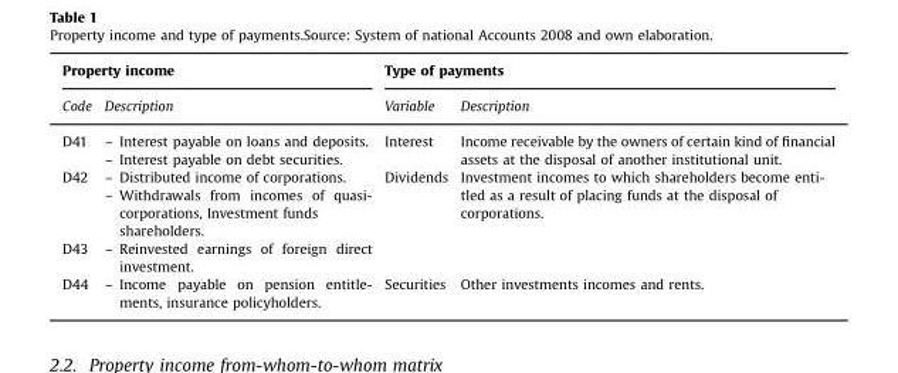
<table><thead><tr><td colspan="2">Property income</td><td colspan="2">Type of payments</td></tr><tr><td>Code</td><td>Description</td><td>Variable</td><td>Description</td></tr></thead><tbody><tr><td rowspan="2">D41</td><td>– Interest payable on loans and deposits.</td><td rowspan="2">Interest</td><td rowspan="2">Income receivable by the owners of certain kind of financial assets at the disposal of another institutional unit.</td></tr><tr><td>– Interest payable on debt securities.</td></tr><tr><td rowspan="2">D42</td><td>– Distributed income of corporations.</td><td rowspan="2">Dividends</td><td rowspan="2">Investment incomes to which shareholders become enti- tled as a result of placing funds at the disposal of corporations.</td></tr><tr><td>– Withdrawals from incomes of quasi- corporations, Investment funds shareholders.</td></tr><tr><td>D43</td><td>– Reinvested earnings of foreign direct investment.</td><td></td><td></td></tr><tr><td>D44</td><td>– Income payable on pension entitle- ments, insurance policyholders.</td><td>Securities</td><td>Other investments incomes and rents.</td></tr></tbody></table>